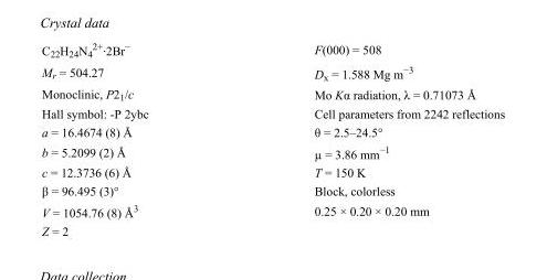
<table><tbody><tr><td>C<sub>22</sub>H<sub>24</sub>N<sub>4</sub> <sup>2+</sup>·2Br<sup>−</sup></td><td>F(000) = 508</td></tr><tr><td>M<sub>r</sub> = 504.27</td><td>D<sub>x</sub> = 1.588 Mg m<sup>−3</sup></td></tr><tr><td>Monoclinic, P2<sub>1</sub>/c</td><td>Mo Kα radiation, λ = 0.71073 Å</td></tr><tr><td>Hall symbol: -P 2ybc</td><td>Cell parameters from 2242 reflections</td></tr><tr><td>a = 16.4674 (8) Å</td><td>θ = 2.5–24.5°</td></tr><tr><td>b = 5.2099 (2) Å</td><td>µ = 3.86 mm<sup>−1</sup></td></tr><tr><td>c = 12.3736 (6) Å</td><td>T = 150 K</td></tr><tr><td>β = 96.495 (3)°</td><td>Block, colorless</td></tr><tr><td>V = 1054.76 (8) Å<sup>3</sup></td><td>0.25 × 0.20 × 0.20 mm</td></tr><tr><td>Z = 2</td><td></td></tr></tbody></table>